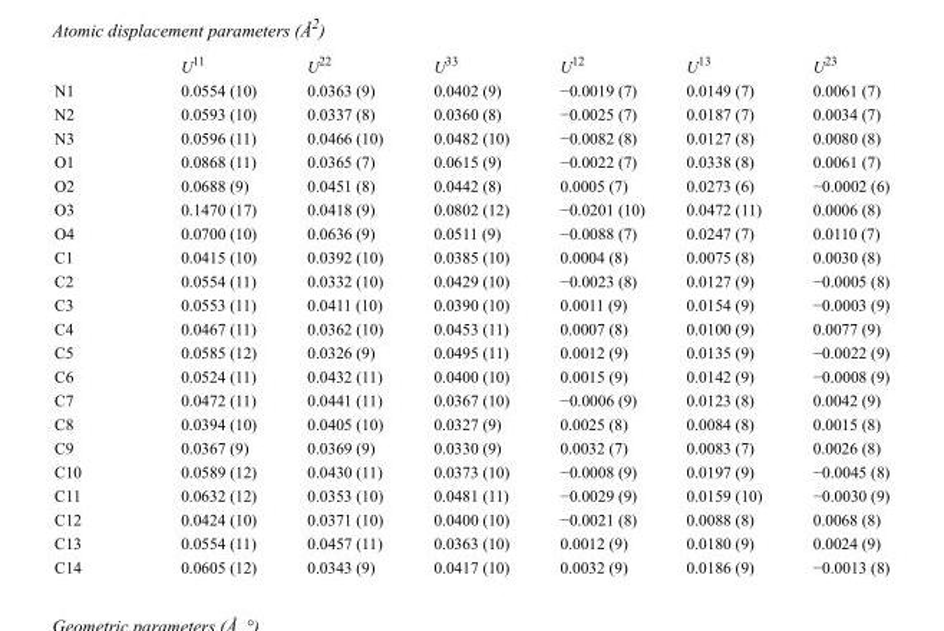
<table><thead><tr><td></td><td>U<sup>11</sup></td><td>U<sup>22</sup></td><td>U<sup>33</sup></td><td>U<sup>12</sup></td><td>U<sup>13</sup></td><td>U<sup>23</sup></td></tr></thead><tbody><tr><td>N1</td><td>0.0554 (10)</td><td>0.0363 (9)</td><td>0.0402 (9)</td><td>−0.0019 (7)</td><td>0.0149 (7)</td><td>0.0061 (7)</td></tr><tr><td>N2</td><td>0.0593 (10)</td><td>0.0337 (8)</td><td>0.0360 (8)</td><td>−0.0025 (7)</td><td>0.0187 (7)</td><td>0.0034 (7)</td></tr><tr><td>N3</td><td>0.0596 (11)</td><td>0.0466 (10)</td><td>0.0482 (10)</td><td>−0.0082 (8)</td><td>0.0127 (8)</td><td>0.0080 (8)</td></tr><tr><td>O1</td><td>0.0868 (11)</td><td>0.0365 (7)</td><td>0.0615 (9)</td><td>−0.0022 (7)</td><td>0.0338 (8)</td><td>0.0061 (7)</td></tr><tr><td>O2</td><td>0.0688 (9)</td><td>0.0451 (8)</td><td>0.0442 (8)</td><td>0.0005 (7)</td><td>0.0273 (6)</td><td>−0.0002 (6)</td></tr><tr><td>O3</td><td>0.1470 (17)</td><td>0.0418 (9)</td><td>0.0802 (12)</td><td>−0.0201 (10)</td><td>0.0472 (11)</td><td>0.0006 (8)</td></tr><tr><td>O4</td><td>0.0700 (10)</td><td>0.0636 (9)</td><td>0.0511 (9)</td><td>−0.0088 (7)</td><td>0.0247 (7)</td><td>0.0110 (7)</td></tr><tr><td>C1</td><td>0.0415 (10)</td><td>0.0392 (10)</td><td>0.0385 (10)</td><td>0.0004 (8)</td><td>0.0075 (8)</td><td>0.0030 (8)</td></tr><tr><td>C2</td><td>0.0554 (11)</td><td>0.0332 (10)</td><td>0.0429 (10)</td><td>−0.0023 (8)</td><td>0.0127 (9)</td><td>−0.0005 (8)</td></tr><tr><td>C3</td><td>0.0553 (11)</td><td>0.0411 (10)</td><td>0.0390 (10)</td><td>0.0011 (9)</td><td>0.0154 (9)</td><td>−0.0003 (9)</td></tr><tr><td>C4</td><td>0.0467 (11)</td><td>0.0362 (10)</td><td>0.0453 (11)</td><td>0.0007 (8)</td><td>0.0100 (9)</td><td>0.0077 (9)</td></tr><tr><td>C5</td><td>0.0585 (12)</td><td>0.0326 (9)</td><td>0.0495 (11)</td><td>0.0012 (9)</td><td>0.0135 (9)</td><td>−0.0022 (9)</td></tr><tr><td>C6</td><td>0.0524 (11)</td><td>0.0432 (11)</td><td>0.0400 (10)</td><td>0.0015 (9)</td><td>0.0142 (9)</td><td>−0.0008 (9)</td></tr><tr><td>C7</td><td>0.0472 (11)</td><td>0.0441 (11)</td><td>0.0367 (10)</td><td>−0.0006 (9)</td><td>0.0123 (8)</td><td>0.0042 (9)</td></tr><tr><td>C8</td><td>0.0394 (10)</td><td>0.0405 (10)</td><td>0.0327 (9)</td><td>0.0025 (8)</td><td>0.0084 (8)</td><td>0.0015 (8)</td></tr><tr><td>C9</td><td>0.0367 (9)</td><td>0.0369 (9)</td><td>0.0330 (9)</td><td>0.0032 (7)</td><td>0.0083 (7)</td><td>0.0026 (8)</td></tr><tr><td>C10</td><td>0.0589 (12)</td><td>0.0430 (11)</td><td>0.0373 (10)</td><td>−0.0008 (9)</td><td>0.0197 (9)</td><td>−0.0045 (8)</td></tr><tr><td>C11</td><td>0.0632 (12)</td><td>0.0353 (10)</td><td>0.0481 (11)</td><td>−0.0029 (9)</td><td>0.0159 (10)</td><td>−0.0030 (9)</td></tr><tr><td>C12</td><td>0.0424 (10)</td><td>0.0371 (10)</td><td>0.0400 (10)</td><td>−0.0021 (8)</td><td>0.0088 (8)</td><td>0.0068 (8)</td></tr><tr><td>C13</td><td>0.0554 (11)</td><td>0.0457 (11)</td><td>0.0363 (10)</td><td>0.0012 (9)</td><td>0.0180 (9)</td><td>0.0024 (9)</td></tr><tr><td>C14</td><td>0.0605 (12)</td><td>0.0343 (9)</td><td>0.0417 (10)</td><td>0.0032 (9)</td><td>0.0186 (9)</td><td>−0.0013 (8)</td></tr></tbody></table>